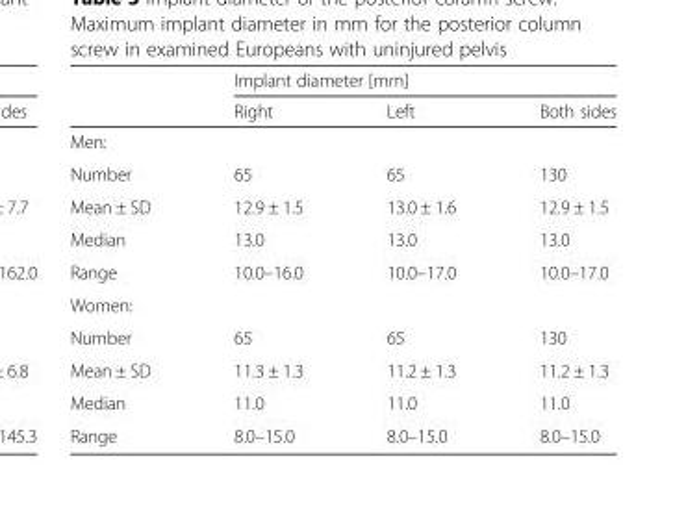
<table><thead><tr><td rowspan="2"></td><td colspan="3">Implant diameter [mm]</td></tr><tr><td>Right</td><td>Left</td><td>Both sides</td></tr></thead><tbody><tr><td colspan="4">Men:</td></tr><tr><td>Number</td><td>65</td><td>65</td><td>130</td></tr><tr><td>Mean ± SD</td><td>12.9 ± 1.5</td><td>13.0 ± 1.6</td><td>12.9 ± 1.5</td></tr><tr><td>Median</td><td>13.0</td><td>13.0</td><td>13.0</td></tr><tr><td>Range</td><td>10.0–16.0</td><td>10.0–17.0</td><td>10.0–17.0</td></tr><tr><td colspan="4">Women:</td></tr><tr><td>Number</td><td>65</td><td>65</td><td>130</td></tr><tr><td>Mean ± SD</td><td>11.3 ± 1.3</td><td>11.2 ± 1.3</td><td>11.2 ± 1.3</td></tr><tr><td>Median</td><td>11.0</td><td>11.0</td><td>11.0</td></tr><tr><td>Range</td><td>8.0–15.0</td><td>8.0–15.0</td><td>8.0–15.0</td></tr></tbody></table>